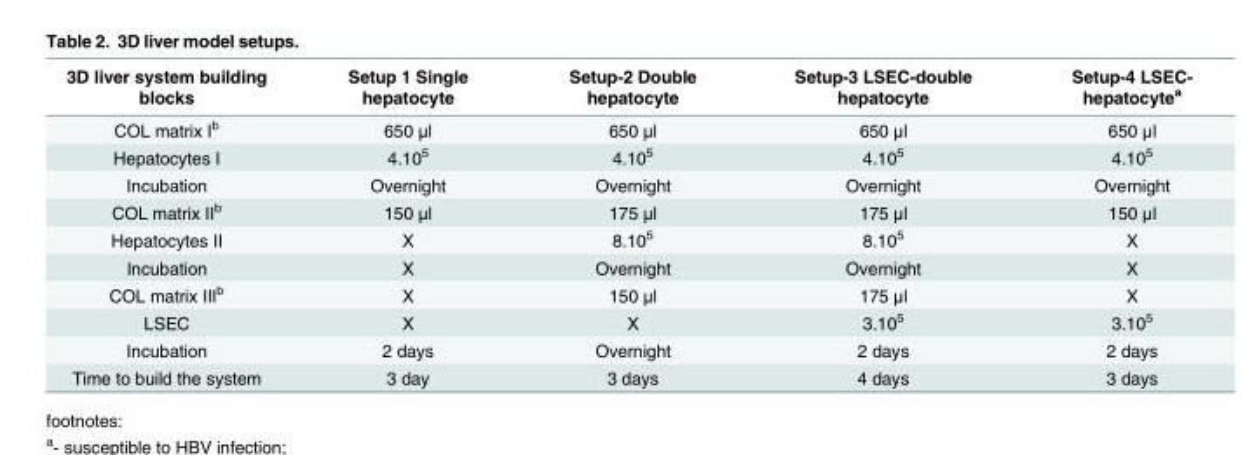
<table><thead><tr><td>3D liver system building blocks</td><td>Setup 1 Single hepatocyte</td><td>Setup-2 Double hepatocyte</td><td>Setup-3 LSEC-double hepatocyte</td><td>Setup-4 LSEC- hepatocyte<sup>a</sup></td></tr></thead><tbody><tr><td>COL matrix I<sup>b</sup></td><td>650 μl</td><td>650 μl</td><td>650 μl</td><td>650 μl</td></tr><tr><td>Hepatocytes I</td><td>4.10<sup>5</sup></td><td>4.10<sup>5</sup></td><td>4.10<sup>5</sup></td><td>4.10<sup>5</sup></td></tr><tr><td>Incubation</td><td>Overnight</td><td>Overnight</td><td>Overnight</td><td>Overnight</td></tr><tr><td>COL matrix II<sup>b</sup></td><td>150 μl</td><td>175 μl</td><td>175 μl</td><td>150 μl</td></tr><tr><td>Hepatocytes II</td><td>X</td><td>8.10<sup>5</sup></td><td>8.10<sup>5</sup></td><td>X</td></tr><tr><td>Incubation</td><td>X</td><td>Overnight</td><td>Overnight</td><td>X</td></tr><tr><td>COL matrix III<sup>b</sup></td><td>X</td><td>150 μl</td><td>175 μl</td><td>X</td></tr><tr><td>LSEC</td><td>X</td><td>X</td><td>3.10<sup>5</sup></td><td>3.10<sup>5</sup></td></tr><tr><td>Incubation</td><td>2 days</td><td>Overnight</td><td>2 days</td><td>2 days</td></tr><tr><td>Time to build the system</td><td>3 day</td><td>3 days</td><td>4 days</td><td>3 days</td></tr></tbody></table>